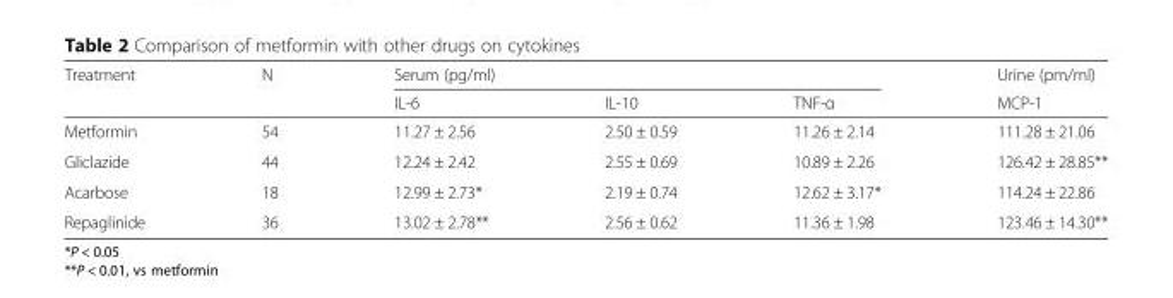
<table><thead><tr><td rowspan="2">Treatment</td><td rowspan="2">N</td><td colspan="3">Serum (pg/ml)</td><td rowspan="2">Urine (pm/ml) MCP-1</td></tr><tr><td>IL-6</td><td>IL-10</td><td>TNF-α</td></tr></thead><tbody><tr><td>Metformin</td><td>54</td><td>11.27 ± 2.56</td><td>2.50 ± 0.59</td><td>11.26 ± 2.14</td><td>111.28 ± 21.06</td></tr><tr><td>Gliclazide</td><td>44</td><td>12.24 ± 2.42</td><td>2.55 ± 0.69</td><td>10.89 ± 2.26</td><td>126.42 ± 28.85**</td></tr><tr><td>Acarbose</td><td>18</td><td>12.99 ± 2.73*</td><td>2.19 ± 0.74</td><td>12.62 ± 3.17*</td><td>114.24 ± 22.86</td></tr><tr><td>Repaglinide</td><td>36</td><td>13.02 ± 2.78**</td><td>2.56 ± 0.62</td><td>11.36 ± 1.98</td><td>123.46 ± 14.30**</td></tr></tbody></table>